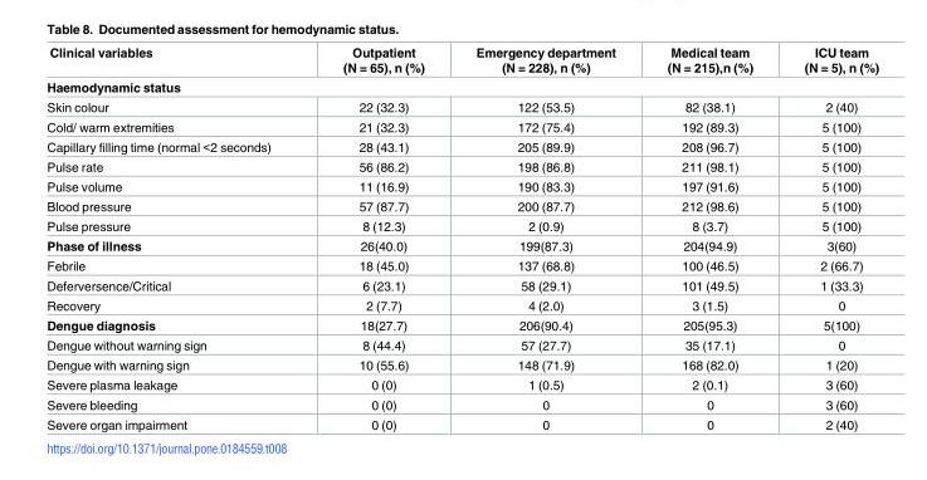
<table><thead><tr><td>Clinical variables</td><td>Outpatient (N = 65), n (%)</td><td>Emergency department (N = 228), n (%)</td><td>Medical team (N = 215),n (%)</td><td>ICU team (N = 5), n (%)</td></tr></thead><tbody><tr><td colspan="5">Haemodynamic status</td></tr><tr><td>Skin colour</td><td>22 (32.3)</td><td>122 (53.5)</td><td>82 (38.1)</td><td>2 (40)</td></tr><tr><td>Cold/ warm extremities</td><td>21 (32.3)</td><td>172 (75.4)</td><td>192 (89.3)</td><td>5 (100)</td></tr><tr><td>Capillary filling time (normal &lt;2 seconds)</td><td>28 (43.1)</td><td>205 (89.9)</td><td>208 (96.7)</td><td>5 (100)</td></tr><tr><td>Pulse rate</td><td>56 (86.2)</td><td>198 (86.8)</td><td>211 (98.1)</td><td>5 (100)</td></tr><tr><td>Pulse volume</td><td>11 (16.9)</td><td>190 (83.3)</td><td>197 (91.6)</td><td>5 (100)</td></tr><tr><td>Blood pressure</td><td>57 (87.7)</td><td>200 (87.7)</td><td>212 (98.6)</td><td>5 (100)</td></tr><tr><td>Pulse pressure</td><td>8 (12.3)</td><td>2 (0.9)</td><td>8 (3.7)</td><td>5 (100)</td></tr><tr><td>Phase of illness</td><td>26(40.0)</td><td>199(87.3)</td><td>204(94.9)</td><td>3(60)</td></tr><tr><td>Febrile</td><td>18 (45.0)</td><td>137 (68.8)</td><td>100 (46.5)</td><td>2 (66.7)</td></tr><tr><td>Deferversence/Critical</td><td>6 (23.1)</td><td>58 (29.1)</td><td>101 (49.5)</td><td>1 (33.3)</td></tr><tr><td>Recovery</td><td>2 (7.7)</td><td>4 (2.0)</td><td>3 (1.5)</td><td>0</td></tr><tr><td>Dengue diagnosis</td><td>18(27.7)</td><td>206(90.4)</td><td>205(95.3)</td><td>5(100)</td></tr><tr><td>Dengue without warning sign</td><td>8 (44.4)</td><td>57 (27.7)</td><td>35 (17.1)</td><td>0</td></tr><tr><td>Dengue with warning sign</td><td>10 (55.6)</td><td>148 (71.9)</td><td>168 (82.0)</td><td>1 (20)</td></tr><tr><td>Severe plasma leakage</td><td>0 (0)</td><td>1 (0.5)</td><td>2 (0.1)</td><td>3 (60)</td></tr><tr><td>Severe bleeding</td><td>0 (0)</td><td>0</td><td>0</td><td>3 (60)</td></tr><tr><td>Severe organ impairment</td><td>0 (0)</td><td>0</td><td>0</td><td>2 (40)</td></tr></tbody></table>